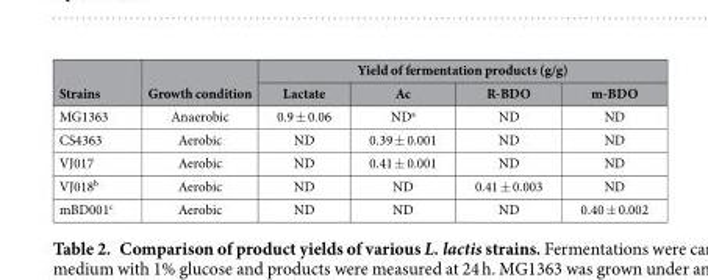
<table><thead><tr><td rowspan="2">Strains</td><td rowspan="2">Growth condition</td><td colspan="4">Yield of fermentation products (g/g)</td></tr><tr><td>Lactate</td><td>Ac</td><td>R-BDO</td><td>m-BDO</td></tr></thead><tbody><tr><td>MG1363</td><td>Anaerobic</td><td>0.9 ± 0.06</td><td>ND<sup>a</sup></td><td>ND</td><td>ND</td></tr><tr><td>CS4363</td><td>Aerobic</td><td>ND</td><td>0.39 ± 0.001</td><td>ND</td><td>ND</td></tr><tr><td>VJ017</td><td>Aerobic</td><td>ND</td><td>0.41 ± 0.001</td><td>ND</td><td>ND</td></tr><tr><td>VJ018<sup>b</sup></td><td>Aerobic</td><td>ND</td><td>ND</td><td>0.41 ± 0.003</td><td>ND</td></tr><tr><td>mBD001<sup>c</sup></td><td>Aerobic</td><td>ND</td><td>ND</td><td>ND</td><td>0.40 ± 0.002</td></tr></tbody></table>